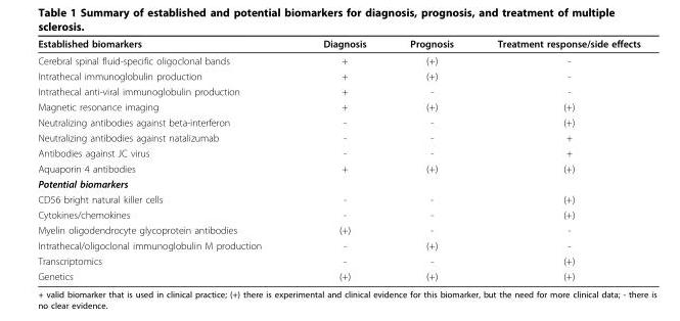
<table><thead><tr><td>Established biomarkers</td><td>Diagnosis</td><td>Prognosis</td><td>Treatment response/side effects</td></tr></thead><tbody><tr><td>Cerebral spinal fluid-specific oligoclonal bands</td><td>+</td><td>(+)</td><td>-</td></tr><tr><td>Intrathecal immunoglobulin production</td><td>+</td><td>(+)</td><td>-</td></tr><tr><td>Intrathecal anti-viral immunoglobulin production</td><td>+</td><td>-</td><td>-</td></tr><tr><td>Magnetic resonance imaging</td><td>+</td><td>(+)</td><td>(+)</td></tr><tr><td>Neutralizing antibodies against beta-interferon</td><td>-</td><td>-</td><td>(+)</td></tr><tr><td>Neutralizing antibodies against natalizumab</td><td>-</td><td>-</td><td>+</td></tr><tr><td>Antibodies against JC virus</td><td>-</td><td>-</td><td>+</td></tr><tr><td>Aquaporin 4 antibodies</td><td>+</td><td>(+)</td><td>(+)</td></tr><tr><td colspan="4">Potential biomarkers</td></tr><tr><td>CD56 bright natural killer cells</td><td>-</td><td>-</td><td>(+)</td></tr><tr><td>Cytokines/chemokines</td><td>-</td><td>-</td><td>(+)</td></tr><tr><td>Myelin oligodendrocyte glycoprotein antibodies</td><td>(+)</td><td>-</td><td>-</td></tr><tr><td>Intrathecal/oligoclonal immunoglobulin M production</td><td>-</td><td>(+)</td><td>-</td></tr><tr><td>Transcriptomics</td><td>-</td><td>-</td><td>(+)</td></tr><tr><td>Genetics</td><td>(+)</td><td>(+)</td><td>(+)</td></tr></tbody></table>